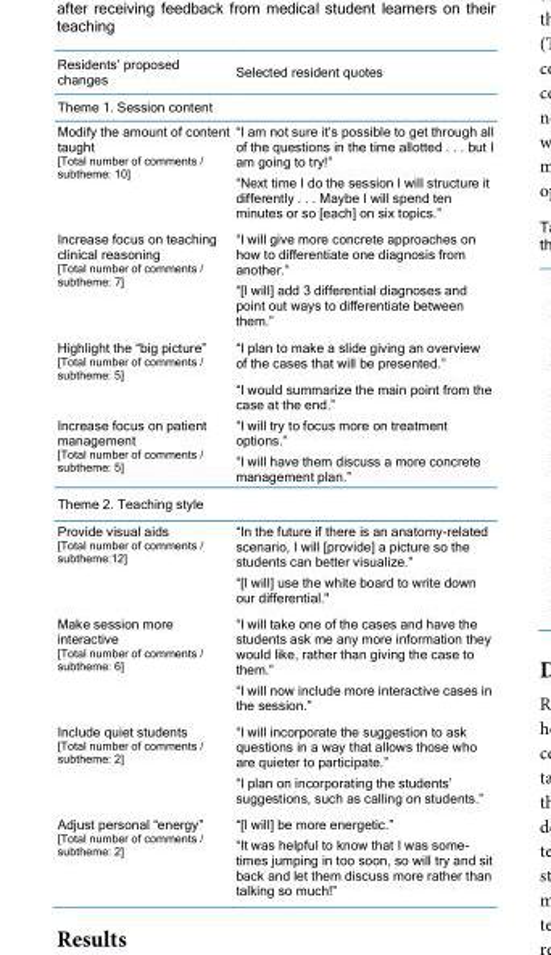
<table><thead><tr><td>Residents’ proposed changes</td><td>Selected resident quotes</td></tr></thead><tbody><tr><td colspan="2">Theme 1. Session content</td></tr><tr><td rowspan="2">Modify the amount of content taught [Total number of comments / subtheme: 10]</td><td>“I am not sure it’s possible to get through all of the questions in the time allotted . . . but I am going to try!”</td></tr><tr><td>“Next time I do the session I will structure it differently . . . Maybe I will spend ten minutes or so [each] on six topics.”</td></tr><tr><td rowspan="2">Increase focus on teaching clinical reasoning [Total number of comments / subtheme: 7]</td><td>“I will give more concrete approaches on how to differentiate one diagnosis from another.”</td></tr><tr><td>“[I will] add 3 differential diagnoses and point out ways to differentiate between them.”</td></tr><tr><td rowspan="2">Highlight the “big picture” [Total number of comments / subtheme: 5]</td><td>“I plan to make a slide giving an overview of the cases that will be presented.”</td></tr><tr><td>“I would summarize the main point from the case at the end.”</td></tr><tr><td rowspan="2">Increase focus on patient management [Total number of comments / subtheme: 5]</td><td>“I will try to focus more on treatment options.”</td></tr><tr><td>“I will have them discuss a more concrete management plan.”</td></tr><tr><td colspan="2">Theme 2. Teaching style</td></tr><tr><td rowspan="2">Provide visual aids [Total number of comments / subtheme:12]</td><td>“In the future if there is an anatomy-related scenario, I will [provide] a picture so the students can better visualize.”</td></tr><tr><td>“[I will] use the white board to write down our differential.&quot;</td></tr><tr><td rowspan="2">Make session more interactive [Total number of comments / subtheme: 6]</td><td>“I will take one of the cases and have the students ask me any more information they would like, rather than giving the case to them.”</td></tr><tr><td>“I will now include more interactive cases in the session.”</td></tr><tr><td rowspan="2">Include quiet students [Total number of comments / subtheme: 2]</td><td>“I will incorporate the suggestion to ask questions in a way that allows those who are quieter to participate.”</td></tr><tr><td>“I plan on incorporating the students’ suggestions, such as calling on students.”</td></tr><tr><td rowspan="2">Adjust personal “energy” [Total number of comments / subtheme: 2]</td><td>“[I will] be more energetic.”</td></tr><tr><td>“It was helpful to know that I was some- times jumping in too soon, so will try and sit back and let them discuss more rather than talking so much!”</td></tr></tbody></table>